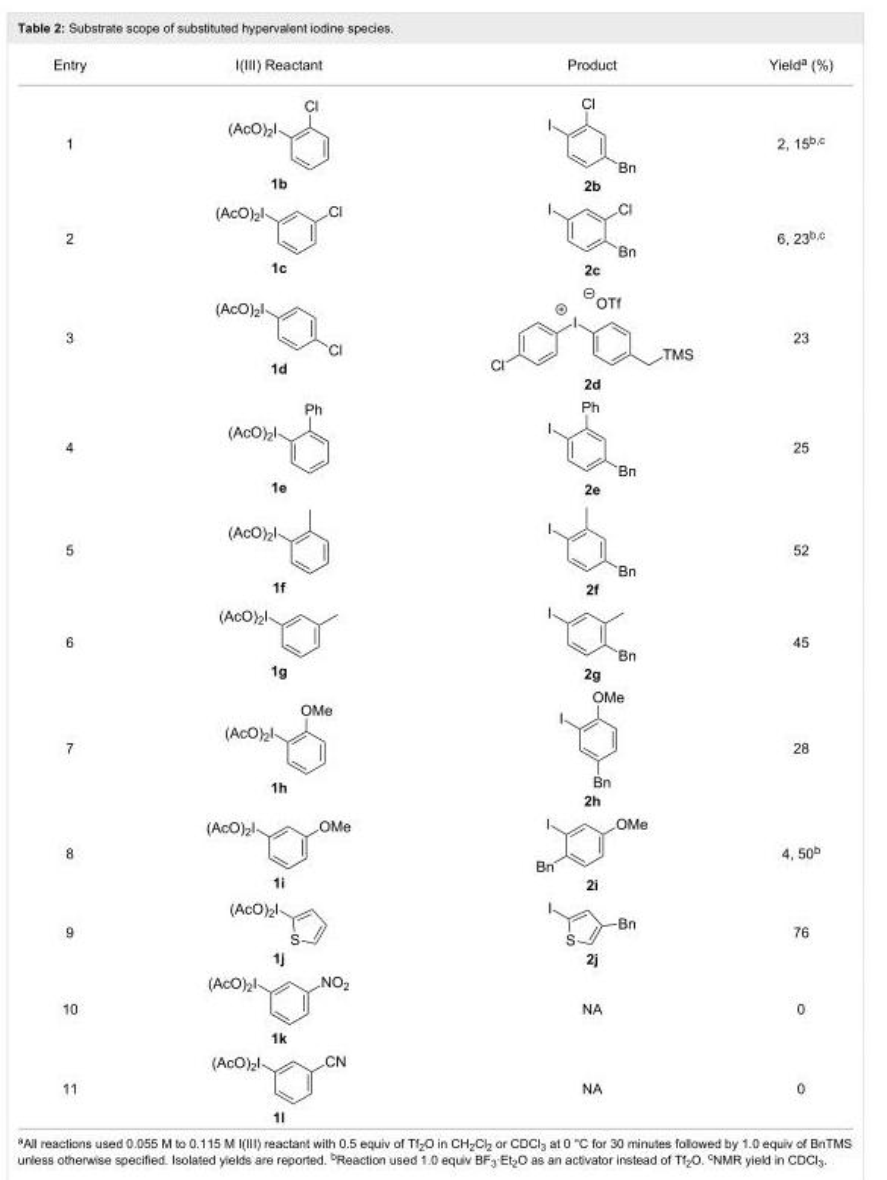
<table><tbody><tr><td>Entry</td><td>I(III) Reactant</td><td>Product</td><td>Yield<sup>a</sup> (%)</td></tr><tr><td>1</td><td>1b</td><td>2b</td><td>2, 15<sup>b,c</sup></td></tr><tr><td>2</td><td>1c</td><td>2c</td><td>6, 23<sup>b,c</sup></td></tr><tr><td>3</td><td>1d</td><td>2d</td><td>23</td></tr><tr><td>4</td><td>1e</td><td>2e</td><td>25</td></tr><tr><td>5</td><td>1f</td><td>2f</td><td>52</td></tr><tr><td>6</td><td>1g</td><td>2g</td><td>45</td></tr><tr><td>7</td><td>1h</td><td>2h</td><td>28</td></tr><tr><td>8</td><td>1i</td><td>2i</td><td>4, 50<sup>b</sup></td></tr><tr><td>9</td><td>1j</td><td>2j</td><td>76</td></tr><tr><td>10</td><td>1k</td><td>NA</td><td>0</td></tr><tr><td>11</td><td>1l</td><td>NA</td><td>0</td></tr></tbody></table>